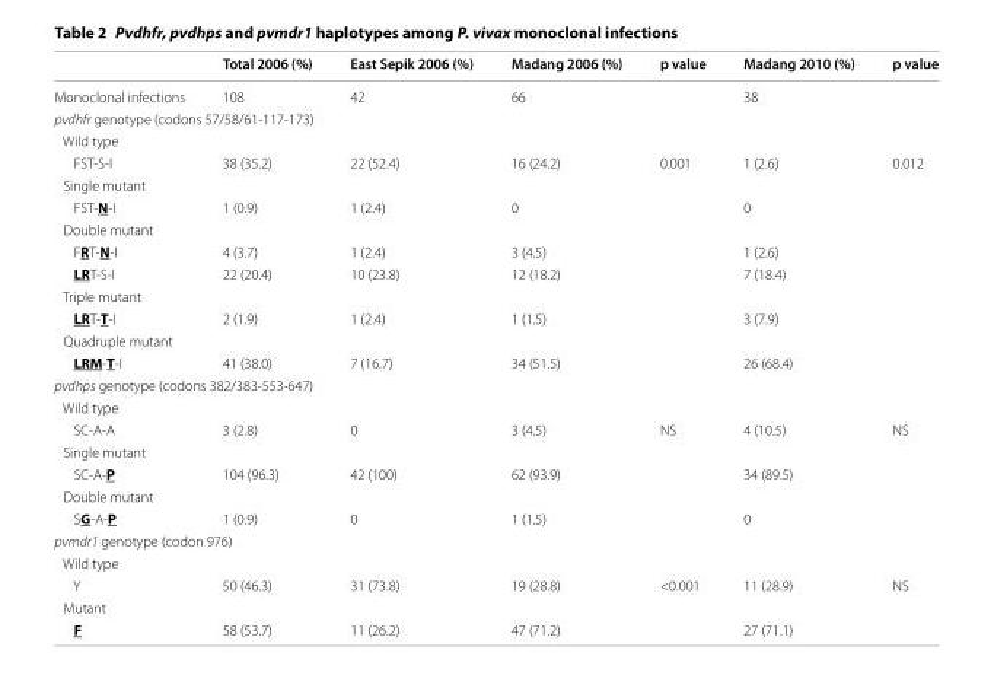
<table><thead><tr><td></td><td>Total 2006 (%)</td><td>East Sepik 2006 (%)</td><td>Madang 2006 (%)</td><td>p value</td><td>Madang 2010 (%)</td><td>p value</td></tr></thead><tbody><tr><td>Monoclonal infections</td><td>108</td><td>42</td><td>66</td><td></td><td>38</td><td></td></tr><tr><td colspan="7">pvdhfr genotype (codons 57/58/61-117-173)</td></tr><tr><td colspan="7">Wild type</td></tr><tr><td>FST-S-I</td><td>38 (35.2)</td><td>22 (52.4)</td><td>16 (24.2)</td><td>0.001</td><td>1 (2.6)</td><td>0.012</td></tr><tr><td colspan="7">Single mutant</td></tr><tr><td>FST-N-I</td><td>1 (0.9)</td><td>1 (2.4)</td><td>0</td><td></td><td>0</td><td></td></tr><tr><td colspan="7">Double mutant</td></tr><tr><td>FRT-N-I</td><td>4 (3.7)</td><td>1 (2.4)</td><td>3 (4.5)</td><td></td><td>1 (2.6)</td><td></td></tr><tr><td>LRT-S-I</td><td>22 (20.4)</td><td>10 (23.8)</td><td>12 (18.2)</td><td></td><td>7 (18.4)</td><td></td></tr><tr><td colspan="7">Triple mutant</td></tr><tr><td>LRT-T-I</td><td>2 (1.9)</td><td>1 (2.4)</td><td>1 (1.5)</td><td></td><td>3 (7.9)</td><td></td></tr><tr><td colspan="7">Quadruple mutant</td></tr><tr><td>LRM-T-I</td><td>41 (38.0)</td><td>7 (16.7)</td><td>34 (51.5)</td><td></td><td>26 (68.4)</td><td></td></tr><tr><td colspan="7">pvdhps genotype (codons 382/383-553-647)</td></tr><tr><td colspan="7">Wild type</td></tr><tr><td>SC-A-A</td><td>3 (2.8)</td><td>0</td><td>3 (4.5)</td><td>NS</td><td>4 (10.5)</td><td>NS</td></tr><tr><td colspan="7">Single mutant</td></tr><tr><td>SC-A-P</td><td>104 (96.3)</td><td>42 (100)</td><td>62 (93.9)</td><td></td><td>34 (89.5)</td><td></td></tr><tr><td colspan="7">Double mutant</td></tr><tr><td>SG-A-P</td><td>1 (0.9)</td><td>0</td><td>1 (1.5)</td><td></td><td>0</td><td></td></tr><tr><td colspan="7">pvmdr1 genotype (codon 976)</td></tr><tr><td colspan="7">Wild type</td></tr><tr><td>Y</td><td>50 (46.3)</td><td>31 (73.8)</td><td>19 (28.8)</td><td>&lt;0.001</td><td>11 (28.9)</td><td>NS</td></tr><tr><td colspan="7">Mutant</td></tr><tr><td>F</td><td>58 (53.7)</td><td>11 (26.2)</td><td>47 (71.2)</td><td></td><td>27 (71.1)</td><td></td></tr></tbody></table>